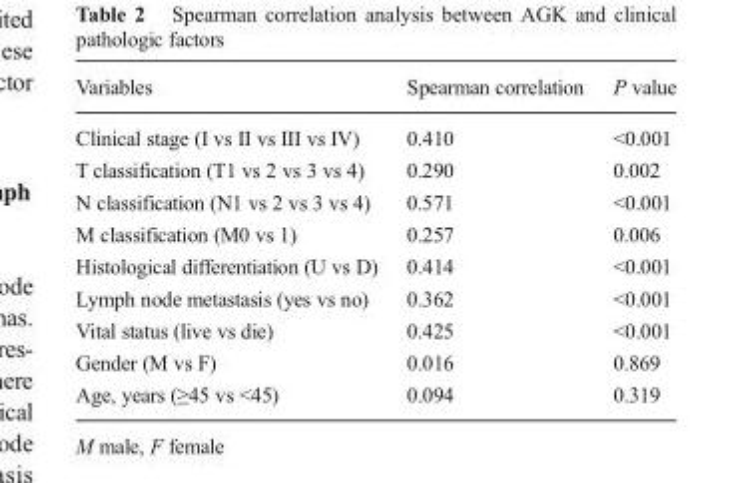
<table><thead><tr><td>Variables</td><td>Spearman correlation</td><td>P value</td></tr></thead><tbody><tr><td>Clinical stage (I vs II vs III vs IV)</td><td>0.410</td><td>&lt;0.001</td></tr><tr><td>T classification (T1 vs 2 vs 3 vs 4)</td><td>0.290</td><td>0.002</td></tr><tr><td>N classification (N1 vs 2 vs 3 vs 4)</td><td>0.571</td><td>&lt;0.001</td></tr><tr><td>M classification (M0 vs 1)</td><td>0.257</td><td>0.006</td></tr><tr><td>Histological differentiation (U vs D)</td><td>0.414</td><td>&lt;0.001</td></tr><tr><td>Lymph node metastasis (yes vs no)</td><td>0.362</td><td>&lt;0.001</td></tr><tr><td>Vital status (live vs die)</td><td>0.425</td><td>&lt;0.001</td></tr><tr><td>Gender (M vs F)</td><td>0.016</td><td>0.869</td></tr><tr><td>Age, years (≥45 vs &lt;45)</td><td>0.094</td><td>0.319</td></tr></tbody></table>